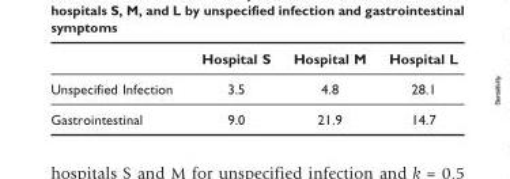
<table><thead><tr><td></td><td>Hospital S</td><td>Hospital M</td><td>Hospital L</td></tr></thead><tbody><tr><td>Unspecified Infection</td><td>3.5</td><td>4.8</td><td>28.1</td></tr><tr><td>Gastrointestinal</td><td>9.0</td><td>21.9</td><td>14.7</td></tr></tbody></table>